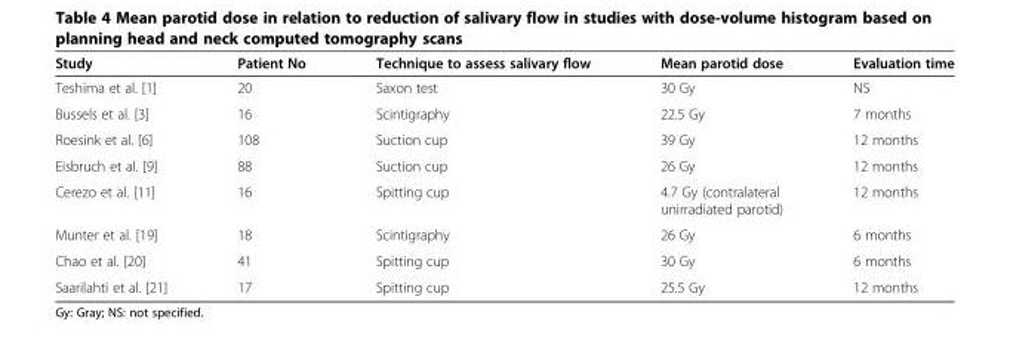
<table><thead><tr><td>Study</td><td>Patient No</td><td>Technique to assess salivary flow</td><td>Mean parotid dose</td><td>Evaluation time</td></tr></thead><tbody><tr><td>Teshima et al. [1]</td><td>20</td><td>Saxon test</td><td>30 Gy</td><td>NS</td></tr><tr><td>Bussels et al. [3]</td><td>16</td><td>Scintigraphy</td><td>22.5 Gy</td><td>7 months</td></tr><tr><td>Roesink et al. [6]</td><td>108</td><td>Suction cup</td><td>39 Gy</td><td>12 months</td></tr><tr><td>Eisbruch et al. [9]</td><td>88</td><td>Suction cup</td><td>26 Gy</td><td>12 months</td></tr><tr><td>Cerezo et al. [11]</td><td>16</td><td>Spitting cup</td><td>4.7 Gy (contralateral unirradiated parotid)</td><td>12 months</td></tr><tr><td>Munter et al. [19]</td><td>18</td><td>Scintigraphy</td><td>26 Gy</td><td>6 months</td></tr><tr><td>Chao et al. [20]</td><td>41</td><td>Spitting cup</td><td>30 Gy</td><td>6 months</td></tr><tr><td>Saarilahti et al. [21]</td><td>17</td><td>Spitting cup</td><td>25.5 Gy</td><td>12 months</td></tr></tbody></table>